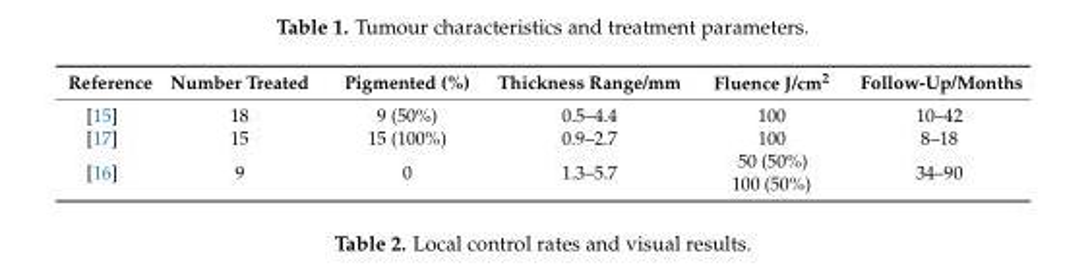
<table><thead><tr><td>Reference</td><td>Number Treated</td><td>Pigmented (%)</td><td>Thickness Range/mm</td><td>Fluence J/cm<sup>2</sup></td><td>Follow-Up/Months</td></tr></thead><tbody><tr><td>[15]</td><td>18</td><td>9 (50%)</td><td>0.5–4.4</td><td>100</td><td>10–42</td></tr><tr><td>[17]</td><td>15</td><td>15 (100%)</td><td>0.9–2.7</td><td>100</td><td>8–18</td></tr><tr><td>[16]</td><td>9</td><td>0</td><td>1.3–5.7</td><td>50 (50%) 100 (50%)</td><td>34–90</td></tr></tbody></table>